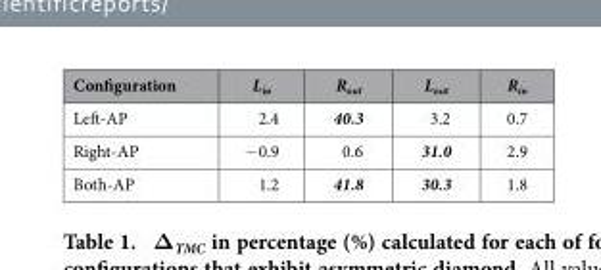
<table><thead><tr><td>Configuration</td><td>L<sub>in</sub></td><td>R<sub>out</sub></td><td>L<sub>out</sub></td><td>R<sub>in</sub></td></tr></thead><tbody><tr><td>Left-AP</td><td>2.4</td><td>40.3</td><td>3.2</td><td>0.7</td></tr><tr><td>Right-AP</td><td>− 0.9</td><td>0.6</td><td>31.0</td><td>2.9</td></tr><tr><td>Both-AP</td><td>1.2</td><td>41.8</td><td>30.3</td><td>1.8</td></tr></tbody></table>